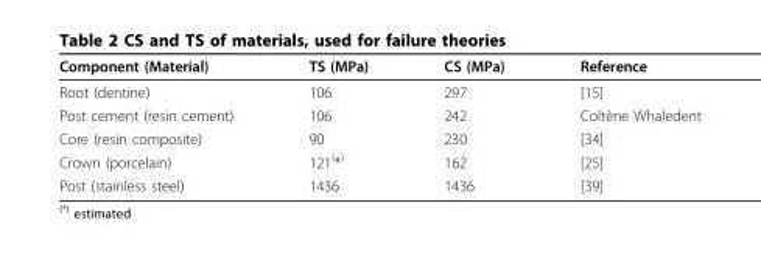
<table><thead><tr><td>Component (Material)</td><td>TS (MPa)</td><td>CS (MPa)</td><td>Reference</td></tr></thead><tbody><tr><td>Root (dentine)</td><td>106</td><td>297</td><td>[15]</td></tr><tr><td>Post cement (resin cement)</td><td>106</td><td>242</td><td>Coltène Whaledent</td></tr><tr><td>Core (resin composite)</td><td>90</td><td>230</td><td>[34]</td></tr><tr><td>Crown (porcelain)</td><td>121<sup>(</sup>*<sup>)</sup></td><td>162</td><td>[25]</td></tr><tr><td>Post (stainless steel)</td><td>1436</td><td>1436</td><td>[39]</td></tr></tbody></table>